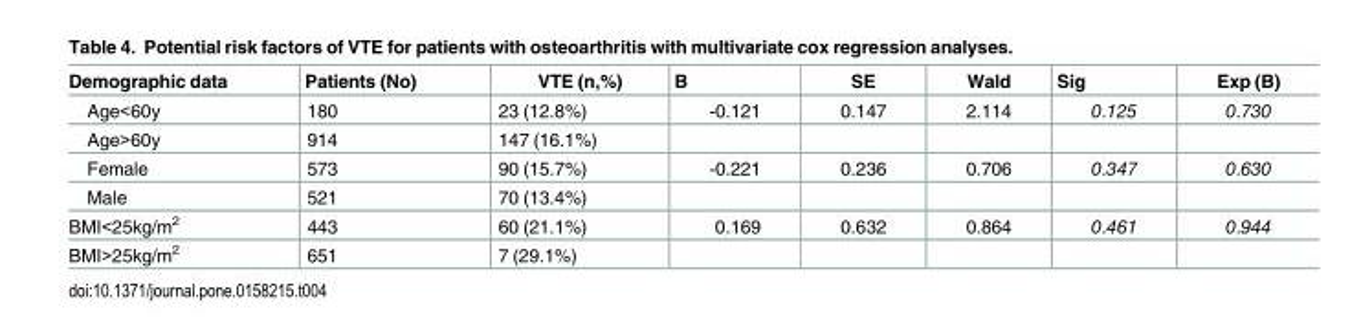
<table><thead><tr><td>Demographic data</td><td>Patients (No)</td><td>VTE (n,%)</td><td>B</td><td>SE</td><td>Wald</td><td>Sig</td><td>Exp (B)</td></tr></thead><tbody><tr><td>Age&lt;60y</td><td>180</td><td>23 (12.8%)</td><td>-0.121</td><td>0.147</td><td>2.114</td><td>0.125</td><td>0.730</td></tr><tr><td>Age&gt;60y</td><td>914</td><td>147 (16.1%)</td><td></td><td></td><td></td><td></td><td></td></tr><tr><td>Female</td><td>573</td><td>90 (15.7%)</td><td>-0.221</td><td>0.236</td><td>0.706</td><td>0.347</td><td>0.630</td></tr><tr><td>Male</td><td>521</td><td>70 (13.4%)</td><td></td><td></td><td></td><td></td><td></td></tr><tr><td>BMI&lt;25kg/m<sup>2</sup></td><td>443</td><td>60 (21.1%)</td><td>0.169</td><td>0.632</td><td>0.864</td><td>0.461</td><td>0.944</td></tr><tr><td>BMI&gt;25kg/m<sup>2</sup></td><td>651</td><td>7 (29.1%)</td><td></td><td></td><td></td><td></td><td></td></tr></tbody></table>